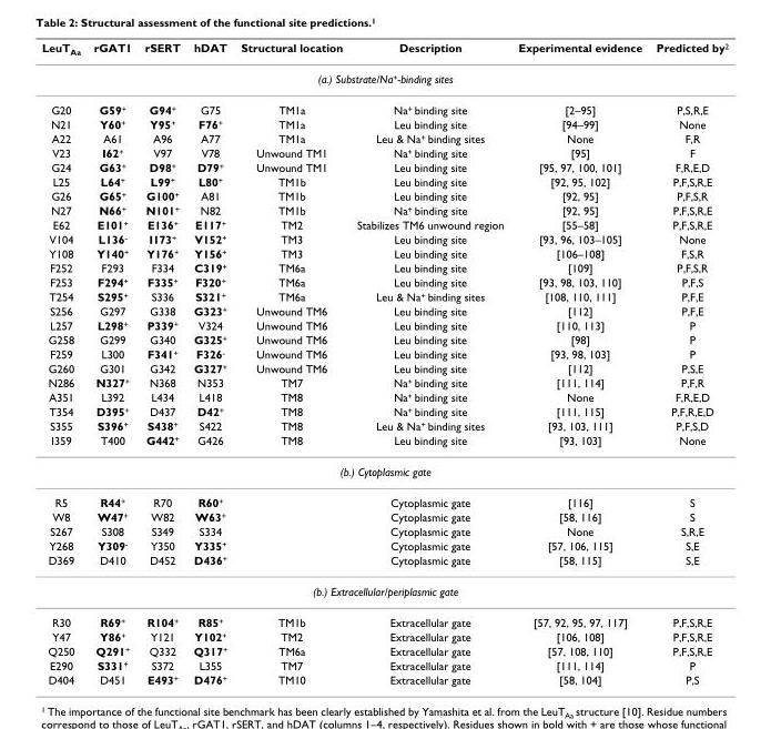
<table><thead><tr><td>LeuT<sub>Aa</sub></td><td>rGAT1</td><td>rSERT</td><td>hDAT</td><td>Structural location</td><td>Description</td><td>Experimental evidence</td><td>Predicted by<sup>2</sup></td></tr></thead><tbody><tr><td colspan="8">(a.) Substrate/Na<sup>+</sup>-binding sites</td></tr><tr><td>G20</td><td>G59<sup>+</sup></td><td>G94<sup>+</sup></td><td>G75</td><td>TM1a</td><td>Na<sup>+</sup> binding site</td><td>[2–95]</td><td>P,S,R,E</td></tr><tr><td>N21</td><td>Y60<sup>+</sup></td><td>Y95<sup>+</sup></td><td>F76<sup>+</sup></td><td>TM1a</td><td>Leu binding site</td><td>[94–99]</td><td>None</td></tr><tr><td>A22</td><td>A61</td><td>A96</td><td>A77</td><td>TM1a</td><td>Leu &amp; Na<sup>+</sup> binding sites</td><td>None</td><td>F,R</td></tr><tr><td>V23</td><td>I62<sup>+</sup></td><td>V97</td><td>V78</td><td>Unwound TM1</td><td>Na<sup>+</sup> binding site</td><td>[95]</td><td>F</td></tr><tr><td>G24</td><td>G63<sup>+</sup></td><td>D98<sup>+</sup></td><td>D79<sup>+</sup></td><td>Unwound TM1</td><td>Leu binding site</td><td>[95, 97, 100, 101]</td><td>F,R,E,D</td></tr><tr><td>L25</td><td>L64<sup>+</sup></td><td>L99<sup>+</sup></td><td>L80<sup>+</sup></td><td>TM1b</td><td>Leu binding site</td><td>[92, 95, 102]</td><td>P,F,S,R,E</td></tr><tr><td>G26</td><td>G65<sup>+</sup></td><td>G100<sup>+</sup></td><td>A81</td><td>TM1b</td><td>Leu binding site</td><td>[92, 95]</td><td>P,F,S,R</td></tr><tr><td>N27</td><td>N66<sup>+</sup></td><td>N101<sup>+</sup></td><td>N82</td><td>TM1b</td><td>Na<sup>+</sup> binding site</td><td>[92, 95]</td><td>P,F,S,R,E</td></tr><tr><td>E62</td><td>E101<sup>+</sup></td><td>E136<sup>+</sup></td><td>E117<sup>+</sup></td><td>TM2</td><td>Stabilizes TM6 unwound region</td><td>[55–58]</td><td>P,F,S,R,E</td></tr><tr><td>V104</td><td>L136<sup>-</sup></td><td>I173<sup>+</sup></td><td>V152<sup>+</sup></td><td>TM3</td><td>Leu binding site</td><td>[93, 96, 103–105]</td><td>None</td></tr><tr><td>Y108</td><td>Y140<sup>+</sup></td><td>Y176<sup>+</sup></td><td>Y156<sup>+</sup></td><td>TM3</td><td>Leu binding site</td><td>[106–108]</td><td>F,S,R</td></tr><tr><td>F252</td><td>F293</td><td>F334</td><td>C319<sup>+</sup></td><td>TM6a</td><td>Leu binding site</td><td>[109]</td><td>P,F,S,R</td></tr><tr><td>F253</td><td>F294<sup>+</sup></td><td>F335<sup>+</sup></td><td>F320<sup>+</sup></td><td>TM6a</td><td>Leu binding site</td><td>[93, 98, 103, 110]</td><td>P,F,S</td></tr><tr><td>T254</td><td>S295<sup>+</sup></td><td>S336</td><td>S321<sup>+</sup></td><td>TM6a</td><td>Leu &amp; Na<sup>+</sup> binding sites</td><td>[108, 110, 111]</td><td>P,F,E</td></tr><tr><td>S256</td><td>G297</td><td>G338</td><td>G323<sup>+</sup></td><td>Unwound TM6</td><td>Leu binding site</td><td>[112]</td><td>P,F,E</td></tr><tr><td>L257</td><td>L298<sup>+</sup></td><td>P339<sup>+</sup></td><td>V324</td><td>Unwound TM6</td><td>Leu binding site</td><td>[110, 113]</td><td>P</td></tr><tr><td>G258</td><td>G299</td><td>G340</td><td>G325<sup>+</sup></td><td>Unwound TM6</td><td>Leu binding site</td><td>[98]</td><td>P</td></tr><tr><td>F259</td><td>L300</td><td>F341<sup>+</sup></td><td>F326<sup>-</sup></td><td>Unwound TM6</td><td>Leu binding site</td><td>[93, 98, 103]</td><td>P</td></tr><tr><td>G260</td><td>G301</td><td>G342</td><td>G327<sup>+</sup></td><td>Unwound TM6</td><td>Leu binding site</td><td>[112]</td><td>P,S,E</td></tr><tr><td>N286</td><td>N327<sup>+</sup></td><td>N368</td><td>N353</td><td>TM7</td><td>Na<sup>+</sup> binding site</td><td>[111, 114]</td><td>P,F,R</td></tr><tr><td>A351</td><td>L392</td><td>L434</td><td>L418</td><td>TM8</td><td>Na<sup>+</sup> binding site</td><td>None</td><td>F,R,E,D</td></tr><tr><td>T354</td><td>D395<sup>+</sup></td><td>D437</td><td>D42<sup>+</sup></td><td>TM8</td><td>Na<sup>+</sup> binding site</td><td>[111, 115]</td><td>P,F,R,E,D</td></tr><tr><td>S355</td><td>S396<sup>+</sup></td><td>S438<sup>+</sup></td><td>S422</td><td>TM8</td><td>Leu &amp; Na<sup>+</sup> binding sites</td><td>[93, 103, 111]</td><td>P,F,S,D</td></tr><tr><td>I359</td><td>T400</td><td>G442<sup>+</sup></td><td>G426</td><td>TM8</td><td>Leu binding site</td><td>[93, 103]</td><td>None</td></tr><tr><td colspan="8">(b.) Cytoplasmic gate</td></tr><tr><td>R5</td><td>R44<sup>+</sup></td><td>R70</td><td>R60<sup>+</sup></td><td></td><td>Cytoplasmic gate</td><td>[116]</td><td>S</td></tr><tr><td>W8</td><td>W47<sup>+</sup></td><td>W82</td><td>W63<sup>+</sup></td><td></td><td>Cytoplasmic gate</td><td>[58, 116]</td><td>S</td></tr><tr><td>S267</td><td>S308</td><td>S349</td><td>S334</td><td></td><td>Cytoplasmic gate</td><td>None</td><td>S,R,E</td></tr><tr><td>Y268</td><td>Y309<sup>-</sup></td><td>Y350</td><td>Y335<sup>+</sup></td><td></td><td>Cytoplasmic gate</td><td>[57, 106, 115]</td><td>S,E</td></tr><tr><td>D369</td><td>D410</td><td>D452</td><td>D436<sup>+</sup></td><td></td><td>Cytoplasmic gate</td><td>[58, 115]</td><td>S,E</td></tr><tr><td colspan="8">(b.) Extracellular/periplasmic gate</td></tr><tr><td>R30</td><td>R69<sup>+</sup></td><td>R104<sup>+</sup></td><td>R85<sup>+</sup></td><td>TM1b</td><td>Extracellular gate</td><td>[57, 92, 95, 97, 117]</td><td>P,F,S,R,E</td></tr><tr><td>Y47</td><td>Y86<sup>+</sup></td><td>Y121</td><td>Y102<sup>+</sup></td><td>TM2</td><td>Extracellular gate</td><td>[106, 108]</td><td>P,F,S,R,E</td></tr><tr><td>Q250</td><td>Q291<sup>+</sup></td><td>Q332</td><td>Q317<sup>+</sup></td><td>TM6a</td><td>Extracellular gate</td><td>[57, 108, 110]</td><td>P,F,S,R,E</td></tr><tr><td>E290</td><td>S331<sup>+</sup></td><td>S372</td><td>L355</td><td>TM7</td><td>Extracellular gate</td><td>[111, 114]</td><td>P</td></tr><tr><td>D404</td><td>D451</td><td>E493<sup>+</sup></td><td>D476<sup>+</sup></td><td>TM10</td><td>Extracellular gate</td><td>[58, 104]</td><td>P,S</td></tr></tbody></table>